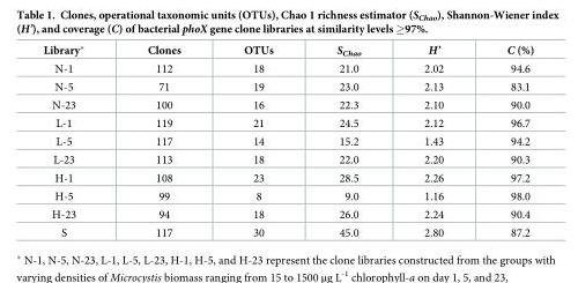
<table><thead><tr><td>Library*</td><td>Clones</td><td>OTUs</td><td>S<sub>Chao</sub></td><td>H’</td><td>C (%)</td></tr></thead><tbody><tr><td>N-1</td><td>112</td><td>18</td><td>21.0</td><td>2.02</td><td>94.6</td></tr><tr><td>N-5</td><td>71</td><td>19</td><td>23.0</td><td>2.13</td><td>83.1</td></tr><tr><td>N-23</td><td>100</td><td>16</td><td>22.3</td><td>2.10</td><td>90.0</td></tr><tr><td>L-1</td><td>119</td><td>21</td><td>24.5</td><td>2.12</td><td>96.7</td></tr><tr><td>L-5</td><td>117</td><td>14</td><td>15.2</td><td>1.43</td><td>94.2</td></tr><tr><td>L-23</td><td>113</td><td>18</td><td>22.0</td><td>2.20</td><td>90.3</td></tr><tr><td>H-1</td><td>108</td><td>23</td><td>28.5</td><td>2.26</td><td>97.2</td></tr><tr><td>H-5</td><td>99</td><td>8</td><td>9.0</td><td>1.16</td><td>98.0</td></tr><tr><td>H-23</td><td>94</td><td>18</td><td>26.0</td><td>2.24</td><td>90.4</td></tr><tr><td>S</td><td>117</td><td>30</td><td>45.0</td><td>2.80</td><td>87.2</td></tr></tbody></table>